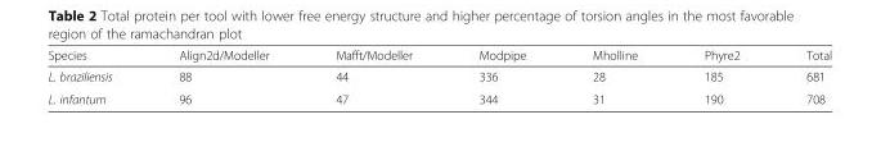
<table><thead><tr><td>Species</td><td>Align2d/Modeller</td><td>Mafft/Modeller</td><td>Modpipe</td><td>Mholline</td><td>Phyre2</td><td>Total</td></tr></thead><tbody><tr><td>L. braziliensis</td><td>88</td><td>44</td><td>336</td><td>28</td><td>185</td><td>681</td></tr><tr><td>L. infantum</td><td>96</td><td>47</td><td>344</td><td>31</td><td>190</td><td>708</td></tr></tbody></table>